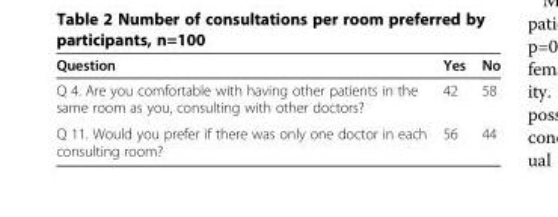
<table><thead><tr><td>Question</td><td>Yes</td><td>No</td></tr></thead><tbody><tr><td>Q 4. Are you comfortable with having other patients in the same room as you, consulting with other doctors?</td><td>42</td><td>58</td></tr><tr><td>Q 11. Would you prefer if there was only one doctor in each consulting room?</td><td>56</td><td>44</td></tr></tbody></table>